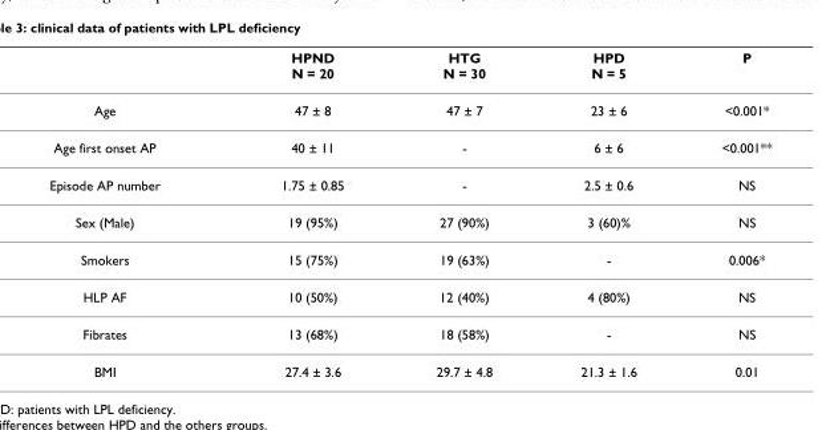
<table><thead><tr><td></td><td>HPND N = 20</td><td>HTG N = 30</td><td>HPD N = 5</td><td>P</td></tr></thead><tbody><tr><td>Age</td><td>47 ± 8</td><td>47 ± 7</td><td>23 ± 6</td><td>&lt;0.001*</td></tr><tr><td>Age first onset AP</td><td>40 ± 11</td><td>-</td><td>6 ± 6</td><td>&lt;0.001**</td></tr><tr><td>Episode AP number</td><td>1.75 ± 0.85</td><td>-</td><td>2.5 ± 0.6</td><td>NS</td></tr><tr><td>Sex (Male)</td><td>19 (95%)</td><td>27 (90%)</td><td>3 (60)%</td><td>NS</td></tr><tr><td>Smokers</td><td>15 (75%)</td><td>19 (63%)</td><td>-</td><td>0.006*</td></tr><tr><td>HLP AF</td><td>10 (50%)</td><td>12 (40%)</td><td>4 (80%)</td><td>NS</td></tr><tr><td>Fibrates</td><td>13 (68%)</td><td>18 (58%)</td><td>-</td><td>NS</td></tr><tr><td>BMI</td><td>27.4 ± 3.6</td><td>29.7 ± 4.8</td><td>21.3 ± 1.6</td><td>0.01</td></tr></tbody></table>